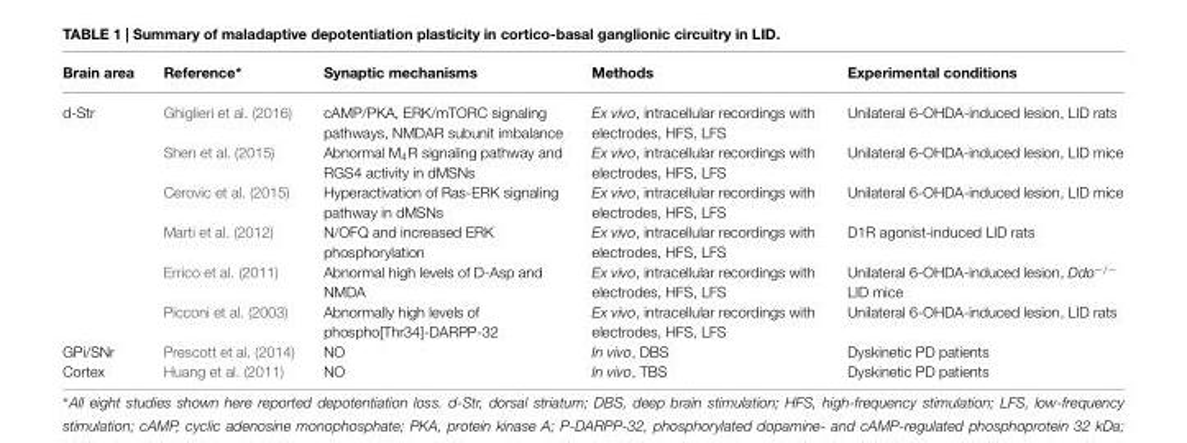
<table><thead><tr><td>Brain area</td><td>Reference*</td><td>Synaptic mechanisms</td><td>Methods</td><td>Experimental conditions</td></tr></thead><tbody><tr><td rowspan="6">d-Str</td><td>Ghiglieri et al. (2016)</td><td>cAMP/PKA, ERK/mTORC signaling pathways, NMDAR subunit imbalance</td><td>Ex vivo, intracellular recordings with electrodes, HFS, LFS</td><td>Unilateral 6-OHDA-induced lesion, LID rats</td></tr><tr><td>Shen et al. (2015)</td><td>Abnormal M<sub>4</sub>R signaling pathway and RGS4 activity in dMSNs</td><td>Ex vivo, intracellular recordings with electrodes, HFS, LFS</td><td>Unilateral 6-OHDA-induced lesion, LID mice</td></tr><tr><td>Cerovic et al. (2015)</td><td>Hyperactivation of Ras-ERK signaling pathway in dMSNs</td><td>Ex vivo, intracellular recordings with electrodes, HFS, LFS</td><td>Unilateral 6-OHDA-induced lesion, LID mice</td></tr><tr><td>Marti et al. (2012)</td><td>N/OFQ and increased ERK phosphorylation</td><td>Ex vivo, intracellular recordings with electrodes, HFS, LFS</td><td>D1R agonist-induced LID rats</td></tr><tr><td>Errico et al. (2011)</td><td>Abnormal high levels of D-Asp and NMDA</td><td>Ex vivo, intracellular recordings with electrodes, HFS, LFS</td><td>Unilateral 6-OHDA-induced lesion, Ddo<sup>−/−</sup> LID mice</td></tr><tr><td>Picconi et al. (2003)</td><td>Abnormally high levels of phospho[Thr34]-DARPP-32</td><td>Ex vivo, intracellular recordings with electrodes, HFS, LFS</td><td>Unilateral 6-OHDA-induced lesion, LID rats</td></tr><tr><td>GPi/SNr</td><td>Prescott et al. (2014)</td><td>NO</td><td>In vivo, DBS</td><td>Dyskinetic PD patients</td></tr><tr><td>Cortex</td><td>Huang et al. (2011)</td><td>NO</td><td>In vivo, TBS</td><td>Dyskinetic PD patients</td></tr></tbody></table>